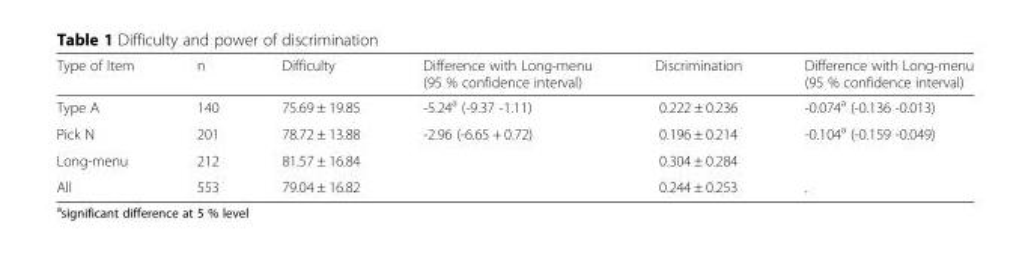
<table><thead><tr><td>Type of Item</td><td>n</td><td>Difficulty</td><td>Difference with Long-menu (95 % confidence interval)</td><td>Discrimination</td><td>Difference with Long-menu (95 % confidence interval)</td></tr></thead><tbody><tr><td>Type A</td><td>140</td><td>75.69 ± 19.85</td><td>-5.24<sup>a</sup> (-9.37 -1.11)</td><td>0.222 ± 0.236</td><td>-0.074<sup>a</sup> (-0.136 -0.013)</td></tr><tr><td>Pick N</td><td>201</td><td>78.72 ± 13.88</td><td>-2.96 (-6.65 + 0.72)</td><td>0.196 ± 0.214</td><td>-0.104<sup>a</sup> (-0.159 -0.049)</td></tr><tr><td>Long-menu</td><td>212</td><td>81.57 ± 16.84</td><td></td><td>0.304 ± 0.284</td><td></td></tr><tr><td>All</td><td>553</td><td>79.04 ± 16.82</td><td></td><td>0.244 ± 0.253</td><td>.</td></tr></tbody></table>